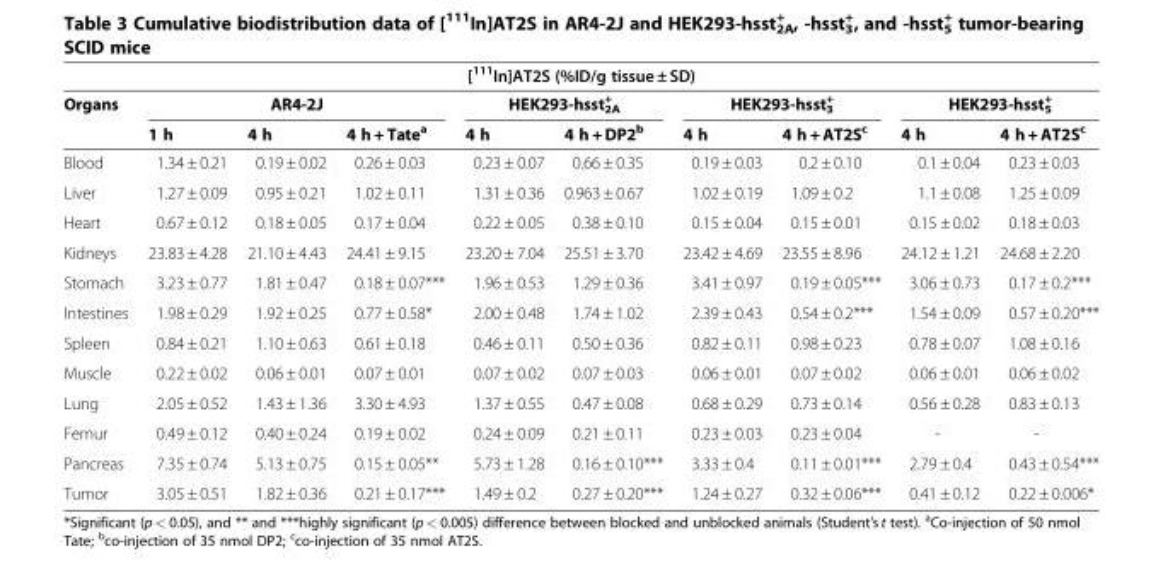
<table><thead><tr><td colspan="10">[<sup>111</sup>In]AT2S (%ID/g tissue ± SD)</td></tr><tr><td rowspan="2">Organs</td><td colspan="3">AR4-2J</td><td colspan="2">HEK293-hsst<sub>2A</sub> <sup>+</sup></td><td colspan="2">HEK293-hsst<sub>3</sub> <sup>+</sup></td><td colspan="2">HEK293-hsst<sub>5</sub> <sup>+</sup></td></tr><tr><td>1 h</td><td>4 h</td><td>4 h + Tate<sup>a</sup></td><td>4 h</td><td>4 h + DP2<sup>b</sup></td><td>4 h</td><td>4 h + AT2S<sup>c</sup></td><td>4 h</td><td>4 h + AT2S<sup>c</sup></td></tr></thead><tbody><tr><td>Blood</td><td>1.34 ± 0.21</td><td>0.19 ± 0.02</td><td>0.26 ± 0.03</td><td>0.23 ± 0.07</td><td>0.66 ± 0.35</td><td>0.19 ± 0.03</td><td>0.2 ± 0.10</td><td>0.1 ± 0.04</td><td>0.23 ± 0.03</td></tr><tr><td>Liver</td><td>1.27 ± 0.09</td><td>0.95 ± 0.21</td><td>1.02 ± 0.11</td><td>1.31 ± 0.36</td><td>0.963 ± 0.67</td><td>1.02 ± 0.19</td><td>1.09 ± 0.2</td><td>1.1 ± 0.08</td><td>1.25 ± 0.09</td></tr><tr><td>Heart</td><td>0.67 ± 0.12</td><td>0.18 ± 0.05</td><td>0.17 ± 0.04</td><td>0.22 ± 0.05</td><td>0.38 ± 0.10</td><td>0.15 ± 0.04</td><td>0.15 ± 0.01</td><td>0.15 ± 0.02</td><td>0.18 ± 0.03</td></tr><tr><td>Kidneys</td><td>23.83 ± 4.28</td><td>21.10 ± 4.43</td><td>24.41 ± 9.15</td><td>23.20 ± 7.04</td><td>25.51 ± 3.70</td><td>23.42 ± 4.69</td><td>23.55 ± 8.96</td><td>24.12 ± 1.21</td><td>24.68 ± 2.20</td></tr><tr><td>Stomach</td><td>3.23 ± 0.77</td><td>1.81 ± 0.47</td><td>0.18 ± 0.07***</td><td>1.96 ± 0.53</td><td>1.29 ± 0.36</td><td>3.41 ± 0.97</td><td>0.19 ± 0.05***</td><td>3.06 ± 0.73</td><td>0.17 ± 0.2***</td></tr><tr><td>Intestines</td><td>1.98 ± 0.29</td><td>1.92 ± 0.25</td><td>0.77 ± 0.58*</td><td>2.00 ± 0.48</td><td>1.74 ± 1.02</td><td>2.39 ± 0.43</td><td>0.54 ± 0.2***</td><td>1.54 ± 0.09</td><td>0.57 ± 0.20***</td></tr><tr><td>Spleen</td><td>0.84 ± 0.21</td><td>1.10 ± 0.63</td><td>0.61 ± 0.18</td><td>0.46 ± 0.11</td><td>0.50 ± 0.36</td><td>0.82 ± 0.11</td><td>0.98 ± 0.23</td><td>0.78 ± 0.07</td><td>1.08 ± 0.16</td></tr><tr><td>Muscle</td><td>0.22 ± 0.02</td><td>0.06 ± 0.01</td><td>0.07 ± 0.01</td><td>0.07 ± 0.02</td><td>0.07 ± 0.03</td><td>0.06 ± 0.01</td><td>0.07 ± 0.02</td><td>0.06 ± 0.01</td><td>0.06 ± 0.02</td></tr><tr><td>Lung</td><td>2.05 ± 0.52</td><td>1.43 ± 1.36</td><td>3.30 ± 4.93</td><td>1.37 ± 0.55</td><td>0.47 ± 0.08</td><td>0.68 ± 0.29</td><td>0.73 ± 0.14</td><td>0.56 ± 0.28</td><td>0.83 ± 0.13</td></tr><tr><td>Femur</td><td>0.49 ± 0.12</td><td>0.40 ± 0.24</td><td>0.19 ± 0.02</td><td>0.24 ± 0.09</td><td>0.21 ± 0.11</td><td>0.23 ± 0.03</td><td>0.23 ± 0.04</td><td>-</td><td>-</td></tr><tr><td>Pancreas</td><td>7.35 ± 0.74</td><td>5.13 ± 0.75</td><td>0.15 ± 0.05**</td><td>5.73 ± 1.28</td><td>0.16 ± 0.10***</td><td>3.33 ± 0.4</td><td>0.11 ± 0.01***</td><td>2.79 ± 0.4</td><td>0.43 ± 0.54***</td></tr><tr><td>Tumor</td><td>3.05 ± 0.51</td><td>1.82 ± 0.36</td><td>0.21 ± 0.17***</td><td>1.49 ± 0.2</td><td>0.27 ± 0.20***</td><td>1.24 ± 0.27</td><td>0.32 ± 0.06***</td><td>0.41 ± 0.12</td><td>0.22 ± 0.006*</td></tr></tbody></table>